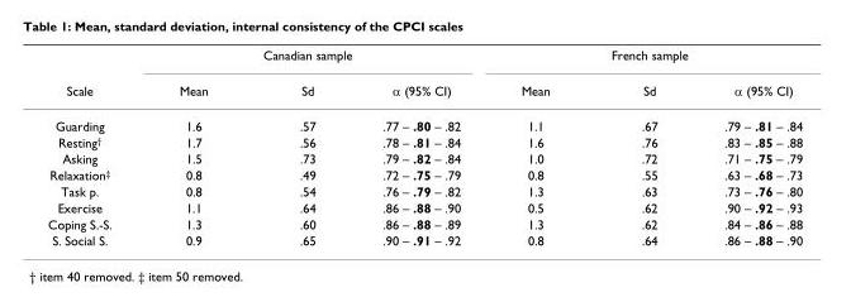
<table><thead><tr><td rowspan="2">Scale</td><td colspan="3">Canadian sample</td><td colspan="3">French sample</td></tr><tr><td>Mean</td><td>Sd</td><td>α (95% CI)</td><td>Mean</td><td>Sd</td><td>α (95% CI)</td></tr></thead><tbody><tr><td>Guarding</td><td>1.6</td><td>.57</td><td>.77 – .80 – .82</td><td>1.1</td><td>.67</td><td>.79 – .81 – .84</td></tr><tr><td>Resting†</td><td>1.7</td><td>.56</td><td>.78 – .81 – .84</td><td>1.6</td><td>.76</td><td>.83 – .85 – .88</td></tr><tr><td>Asking</td><td>1.5</td><td>.73</td><td>.79 – .82 – .84</td><td>1.0</td><td>.72</td><td>.71 – .75 – .79</td></tr><tr><td>Relaxation‡</td><td>0.8</td><td>.49</td><td>.72 – .75 – .79</td><td>0.8</td><td>.55</td><td>.63 – .68 – .73</td></tr><tr><td>Task p.</td><td>0.8</td><td>.54</td><td>.76 – .79 – .82</td><td>1.3</td><td>.63</td><td>.73 – .76 – .80</td></tr><tr><td>Exercise</td><td>1.1</td><td>.64</td><td>.86 – .88 – .90</td><td>0.5</td><td>.62</td><td>.90 – .92 – .93</td></tr><tr><td>Coping S.-S.</td><td>1.3</td><td>.60</td><td>.86 – .88 – .89</td><td>1.3</td><td>.62</td><td>.84 – .86 – .88</td></tr><tr><td>S. Social S.</td><td>0.9</td><td>.65</td><td>.90 – .91 – .92</td><td>0.8</td><td>.64</td><td>.86 – .88 – .90</td></tr></tbody></table>